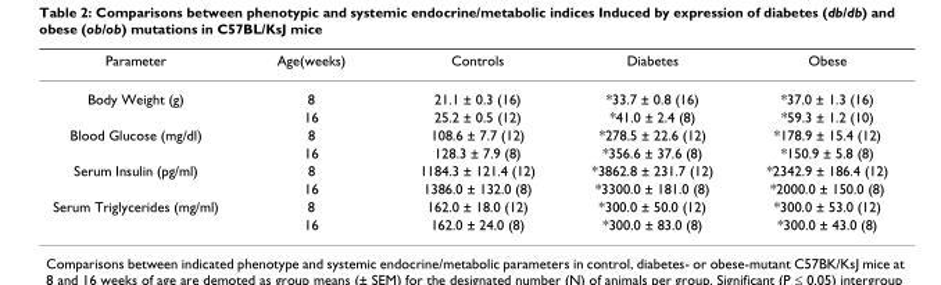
<table><thead><tr><td>Parameter</td><td>Age(weeks)</td><td>Controls</td><td>Diabetes</td><td>Obese</td></tr></thead><tbody><tr><td rowspan="2">Body Weight (g)</td><td>8</td><td>21.1 ± 0.3 (16)</td><td>*33.7 ± 0.8 (16)</td><td>*37.0 ± 1.3 (16)</td></tr><tr><td>16</td><td>25.2 ± 0.5 (12)</td><td>*41.0 ± 2.4 (8)</td><td>*59.3 ± 1.2 (10)</td></tr><tr><td rowspan="2">Blood Glucose (mg/dl)</td><td>8</td><td>108.6 ± 7.7 (12)</td><td>*278.5 ± 22.6 (12)</td><td>*178.9 ± 15.4 (12)</td></tr><tr><td>16</td><td>128.3 ± 7.9 (8)</td><td>*356.6 ± 37.6 (8)</td><td>*150.9 ± 5.8 (8)</td></tr><tr><td rowspan="2">Serum Insulin (pg/ml)</td><td>8</td><td>1184.3 ± 121.4 (12)</td><td>*3862.8 ± 231.7 (12)</td><td>*2342.9 ± 186.4 (12)</td></tr><tr><td>16</td><td>1386.0 ± 132.0 (8)</td><td>*3300.0 ± 181.0 (8)</td><td>*2000.0 ± 150.0 (8)</td></tr><tr><td rowspan="2">Serum Triglycerides (mg/ml)</td><td>8</td><td>162.0 ± 18.0 (12)</td><td>*300.0 ± 50.0 (12)</td><td>*300.0 ± 53.0 (12)</td></tr><tr><td>16</td><td>162.0 ± 24.0 (8)</td><td>*300.0 ± 83.0 (8)</td><td>*300.0 ± 43.0 (8)</td></tr></tbody></table>